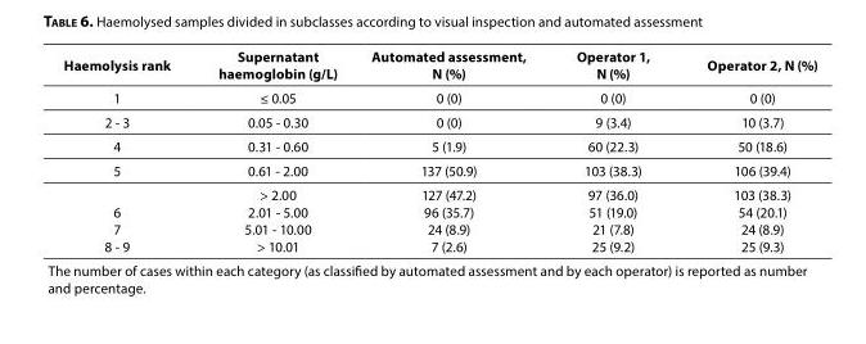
<table><thead><tr><td>Haemolysis rank</td><td>Supernatant haemoglobin (g/L)</td><td>Automated assessment, N (%)</td><td>Operator 1, N (%)</td><td>Operator 2, N (%)</td></tr></thead><tbody><tr><td>1</td><td>≤ 0.05</td><td>0 (0)</td><td>0 (0)</td><td>0 (0)</td></tr><tr><td>2 - 3</td><td>0.05 - 0.30</td><td>0 (0)</td><td>9 (3.4)</td><td>10 (3.7)</td></tr><tr><td>4</td><td>0.31 - 0.60</td><td>5 (1.9)</td><td>60 (22.3)</td><td>50 (18.6)</td></tr><tr><td>5</td><td>0.61 - 2.00</td><td>137 (50.9)</td><td>103 (38.3)</td><td>106 (39.4)</td></tr><tr><td>6 7 8 - 9</td><td>&gt; 2.00 2.01 - 5.00 5.01 - 10.00 &gt; 10.01</td><td>127 (47.2) 96 (35.7) 24 (8.9) 7 (2.6)</td><td>97 (36.0) 51 (19.0) 21 (7.8) 25 (9.2)</td><td>103 (38.3) 54 (20.1) 24 (8.9) 25 (9.3)</td></tr><tr><td colspan="5">The number of cases within each category (as classified by automated assessment and by each operator) is reported as number and percentage.</td></tr></tbody></table>